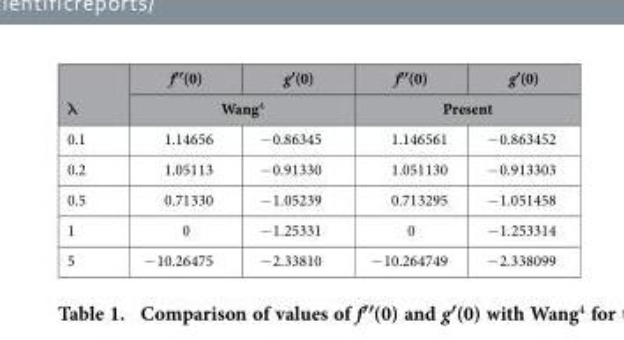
<table><thead><tr><td rowspan="2">λ</td><td>f′′(0)</td><td>g′(0)</td><td>f′′(0)</td><td>g′(0)</td></tr><tr><td colspan="2">Wang<sup>4</sup></td><td colspan="2">Present</td></tr></thead><tbody><tr><td>0.1</td><td>1.14656</td><td>− 0.86345</td><td>1.146561</td><td>− 0.863452</td></tr><tr><td>0.2</td><td>1.05113</td><td>− 0.91330</td><td>1.051130</td><td>− 0.913303</td></tr><tr><td>0.5</td><td>0.71330</td><td>− 1.05239</td><td>0.713295</td><td>− 1.051458</td></tr><tr><td>1</td><td>0</td><td>− 1.25331</td><td>0</td><td>− 1.253314</td></tr><tr><td>5</td><td>− 10.26475</td><td>− 2.33810</td><td>− 10.264749</td><td>− 2.338099</td></tr></tbody></table>